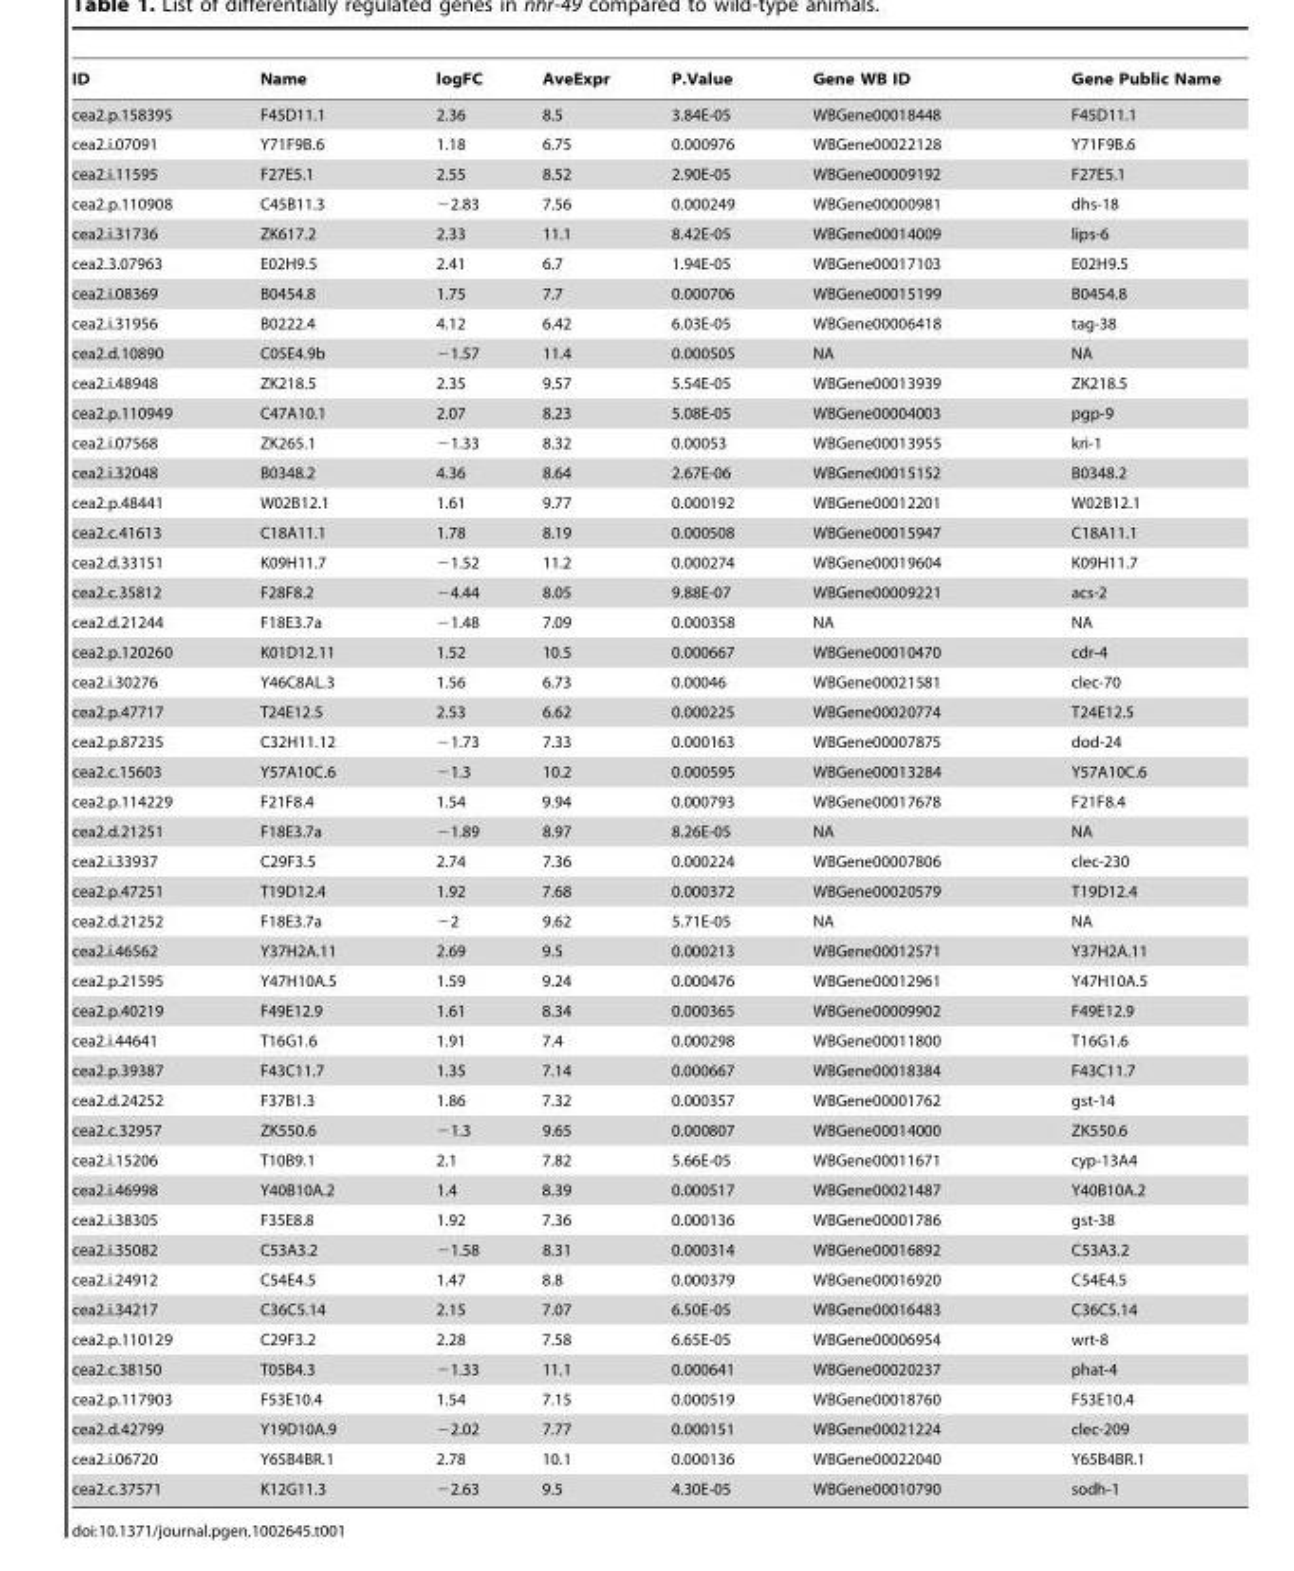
<table><thead><tr><td>ID</td><td>Name</td><td>logFC</td><td>AveExpr</td><td>P.Value</td><td>Gene WB ID</td><td>Gene Public Name</td></tr></thead><tbody><tr><td>cea2.p.158395</td><td>F45D11.1</td><td>2.36</td><td>8.5</td><td>3.84E-05</td><td>WBGene00018448</td><td>F45D11.1</td></tr><tr><td>cea2.i.07091</td><td>Y71F9B.6</td><td>1.18</td><td>6.75</td><td>0.000976</td><td>WBGene00022128</td><td>Y71F9B.6</td></tr><tr><td>cea2.i.11595</td><td>F27E5.1</td><td>2.55</td><td>8.52</td><td>2.90E-05</td><td>WBGene00009192</td><td>F27E5.1</td></tr><tr><td>cea2.p.110908</td><td>C45B11.3</td><td>−2.83</td><td>7.56</td><td>0.000249</td><td>WBGene00000981</td><td>dhs-18</td></tr><tr><td>cea2.i.31736</td><td>ZK617.2</td><td>2.33</td><td>11.1</td><td>8.42E-05</td><td>WBGene00014009</td><td>lips-6</td></tr><tr><td>cea2.3.07963</td><td>E02H9.5</td><td>2.41</td><td>6.7</td><td>1.94E-05</td><td>WBGene00017103</td><td>E02H9.5</td></tr><tr><td>cea2.i.08369</td><td>B0454.8</td><td>1.75</td><td>7.7</td><td>0.000706</td><td>WBGene00015199</td><td>B0454.8</td></tr><tr><td>cea2.i.31956</td><td>B0222.4</td><td>4.12</td><td>6.42</td><td>6.03E-05</td><td>WBGene00006418</td><td>tag-38</td></tr><tr><td>cea2.d.10890</td><td>C05E4.9b</td><td>−1.57</td><td>11.4</td><td>0.000505</td><td>NA</td><td>NA</td></tr><tr><td>cea2.i.48948</td><td>ZK218.5</td><td>2.35</td><td>9.57</td><td>5.54E-05</td><td>WBGene00013939</td><td>ZK218.5</td></tr><tr><td>cea2.p.110949</td><td>C47A10.1</td><td>2.07</td><td>8.23</td><td>5.08E-05</td><td>WBGene00004003</td><td>pgp-9</td></tr><tr><td>cea2.i.07568</td><td>ZK265.1</td><td>−1.33</td><td>8.32</td><td>0.00053</td><td>WBGene00013955</td><td>kri-1</td></tr><tr><td>cea2.i.32048</td><td>B0348.2</td><td>4.36</td><td>8.64</td><td>2.67E-06</td><td>WBGene00015152</td><td>B0348.2</td></tr><tr><td>cea2.p.48441</td><td>W02B12.1</td><td>1.61</td><td>9.77</td><td>0.000192</td><td>WBGene00012201</td><td>W02B12.1</td></tr><tr><td>cea2.c.41613</td><td>C18A11.1</td><td>1.78</td><td>8.19</td><td>0.000508</td><td>WBGene00015947</td><td>C18A11.1</td></tr><tr><td>cea2.d.33151</td><td>K09H11.7</td><td>−1.52</td><td>11.2</td><td>0.000274</td><td>WBGene00019604</td><td>K09H11.7</td></tr><tr><td>cea2.c.35812</td><td>F28F8.2</td><td>−4.44</td><td>8.05</td><td>9.88E-07</td><td>WBGene00009221</td><td>acs-2</td></tr><tr><td>cea2.d.21244</td><td>F18E3.7a</td><td>−1.48</td><td>7.09</td><td>0.000358</td><td>NA</td><td>NA</td></tr><tr><td>cea2.p.120260</td><td>K01D12.11</td><td>1.52</td><td>10.5</td><td>0.000667</td><td>WBGene00010470</td><td>cdr-4</td></tr><tr><td>cea2.i.30276</td><td>Y46C8AL.3</td><td>1.56</td><td>6.73</td><td>0.00046</td><td>WBGene00021581</td><td>clec-70</td></tr><tr><td>cea2.p.47717</td><td>T24E12.5</td><td>2.53</td><td>6.62</td><td>0.000225</td><td>WBGene00020774</td><td>T24E12.5</td></tr><tr><td>cea2.p.87235</td><td>C32H11.12</td><td>−1.73</td><td>7.33</td><td>0.000163</td><td>WBGene00007875</td><td>dod-24</td></tr><tr><td>cea2.c.15603</td><td>Y57A10C.6</td><td>−1.3</td><td>10.2</td><td>0.000595</td><td>WBGene00013284</td><td>Y57A10C.6</td></tr><tr><td>cea2.p.114229</td><td>F21F8.4</td><td>1.54</td><td>9.94</td><td>0.000793</td><td>WBGene00017678</td><td>F21F8.4</td></tr><tr><td>cea2.d.21251</td><td>F18E3.7a</td><td>−1.89</td><td>8.97</td><td>8.26E-05</td><td>NA</td><td>NA</td></tr><tr><td>cea2.i.33937</td><td>C29F3.5</td><td>2.74</td><td>7.36</td><td>0.000224</td><td>WBGene00007806</td><td>clec-230</td></tr><tr><td>cea2.p.47251</td><td>T19D12.4</td><td>1.92</td><td>7.68</td><td>0.000372</td><td>WBGene00020579</td><td>T19D12.4</td></tr><tr><td>cea2.d.21252</td><td>F18E3.7a</td><td>−2</td><td>9.62</td><td>5.71E-05</td><td>NA</td><td>NA</td></tr><tr><td>cea2.i.46562</td><td>Y37H2A.11</td><td>2.69</td><td>9.5</td><td>0.000213</td><td>WBGene00012571</td><td>Y37H2A.11</td></tr><tr><td>cea2.p.21595</td><td>Y47H10A.5</td><td>1.59</td><td>9.24</td><td>0.000476</td><td>WBGene00012961</td><td>Y47H10A.5</td></tr><tr><td>cea2.p.40219</td><td>F49E12.9</td><td>1.61</td><td>8.34</td><td>0.000365</td><td>WBGene00009902</td><td>F49E12.9</td></tr><tr><td>cea2.i.44641</td><td>T16G1.6</td><td>1.91</td><td>7.4</td><td>0.000298</td><td>WBGene00011800</td><td>T16G1.6</td></tr><tr><td>cea2.p.39387</td><td>F43C11.7</td><td>1.35</td><td>7.14</td><td>0.000667</td><td>WBGene00018384</td><td>F43C11.7</td></tr><tr><td>cea2.d.24252</td><td>F37B1.3</td><td>1.86</td><td>7.32</td><td>0.000357</td><td>WBGene00001762</td><td>gst-14</td></tr><tr><td>cea2.c.32957</td><td>ZK550.6</td><td>−1.3</td><td>9.65</td><td>0.000807</td><td>WBGene00014000</td><td>ZK550.6</td></tr><tr><td>cea2.i.15206</td><td>T10B9.1</td><td>2.1</td><td>7.82</td><td>5.66E-05</td><td>WBGene00011671</td><td>cyp-13A4</td></tr><tr><td>cea2.i.46998</td><td>Y40B10A.2</td><td>1.4</td><td>8.39</td><td>0.000517</td><td>WBGene00021487</td><td>Y40B10A.2</td></tr><tr><td>cea2.i.38305</td><td>F35E8.8</td><td>1.92</td><td>7.36</td><td>0.000136</td><td>WBGene00001786</td><td>gst-38</td></tr><tr><td>cea2.i.35082</td><td>C53A3.2</td><td>−1.58</td><td>8.31</td><td>0.000314</td><td>WBGene00016892</td><td>C53A3.2</td></tr><tr><td>cea2.i.24912</td><td>C54E4.5</td><td>1.47</td><td>8.8</td><td>0.000379</td><td>WBGene00016920</td><td>C54E4.5</td></tr><tr><td>cea2.i.34217</td><td>C36C5.14</td><td>2.15</td><td>7.07</td><td>6.50E-05</td><td>WBGene00016483</td><td>C36C5.14</td></tr><tr><td>cea2.p.110129</td><td>C29F3.2</td><td>2.28</td><td>7.58</td><td>6.65E-05</td><td>WBGene00006954</td><td>wrt-8</td></tr><tr><td>cea2.c.38150</td><td>T05B4.3</td><td>−1.33</td><td>11.1</td><td>0.000641</td><td>WBGene00020237</td><td>phat-4</td></tr><tr><td>cea2.p.117903</td><td>F53E10.4</td><td>1.54</td><td>7.15</td><td>0.000519</td><td>WBGene00018760</td><td>F53E10.4</td></tr><tr><td>cea2.d.42799</td><td>Y19D10A.9</td><td>−2.02</td><td>7.77</td><td>0.000151</td><td>WBGene00021224</td><td>clec-209</td></tr><tr><td>cea2.i.06720</td><td>Y65B4BR.1</td><td>2.78</td><td>10.1</td><td>0.000136</td><td>WBGene00022040</td><td>Y65B4BR.1</td></tr><tr><td>cea2.c.37571</td><td>K12G11.3</td><td>−2.63</td><td>9.5</td><td>4.30E-05</td><td>WBGene00010790</td><td>sodh-1</td></tr></tbody></table>